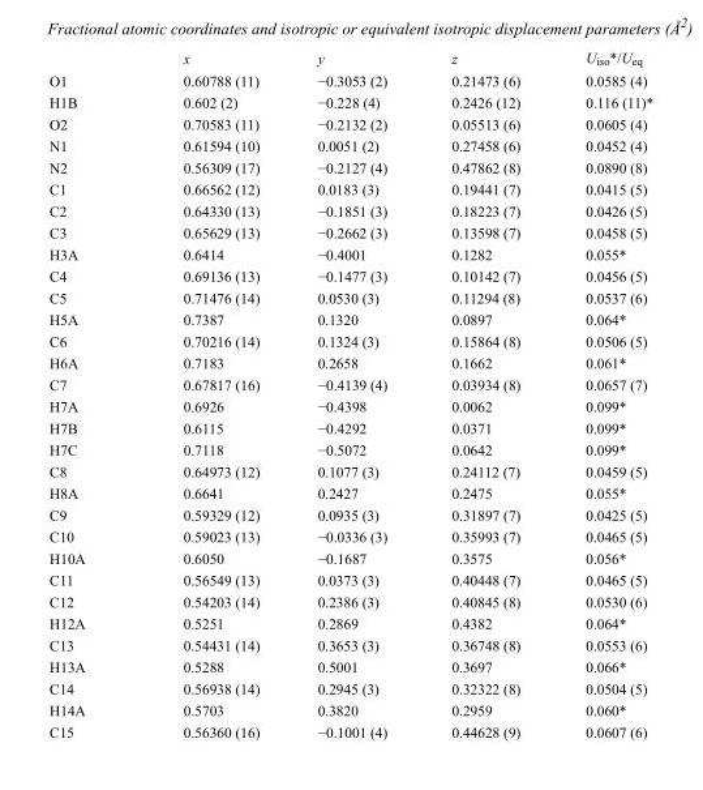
<table><thead><tr><td></td><td>x</td><td>y</td><td>z</td><td>U<sub>iso</sub>*/U<sub>eq</sub></td></tr></thead><tbody><tr><td>O1</td><td>0.60788 (11)</td><td>−0.3053 (2)</td><td>0.21473 (6)</td><td>0.0585 (4)</td></tr><tr><td>H1B</td><td>0.602 (2)</td><td>−0.228 (4)</td><td>0.2426 (12)</td><td>0.116 (11)*</td></tr><tr><td>O2</td><td>0.70583 (11)</td><td>−0.2132 (2)</td><td>0.05513 (6)</td><td>0.0605 (4)</td></tr><tr><td>N1</td><td>0.61594 (10)</td><td>0.0051 (2)</td><td>0.27458 (6)</td><td>0.0452 (4)</td></tr><tr><td>N2</td><td>0.56309 (17)</td><td>−0.2127 (4)</td><td>0.47862 (8)</td><td>0.0890 (8)</td></tr><tr><td>C1</td><td>0.66562 (12)</td><td>0.0183 (3)</td><td>0.19441 (7)</td><td>0.0415 (5)</td></tr><tr><td>C2</td><td>0.64330 (13)</td><td>−0.1851 (3)</td><td>0.18223 (7)</td><td>0.0426 (5)</td></tr><tr><td>C3</td><td>0.65629 (13)</td><td>−0.2662 (3)</td><td>0.13598 (7)</td><td>0.0458 (5)</td></tr><tr><td>H3A</td><td>0.6414</td><td>−0.4001</td><td>0.1282</td><td>0.055*</td></tr><tr><td>C4</td><td>0.69136 (13)</td><td>−0.1477 (3)</td><td>0.10142 (7)</td><td>0.0456 (5)</td></tr><tr><td>C5</td><td>0.71476 (14)</td><td>0.0530 (3)</td><td>0.11294 (8)</td><td>0.0537 (6)</td></tr><tr><td>H5A</td><td>0.7387</td><td>0.1320</td><td>0.0897</td><td>0.064*</td></tr><tr><td>C6</td><td>0.70216 (14)</td><td>0.1324 (3)</td><td>0.15864 (8)</td><td>0.0506 (5)</td></tr><tr><td>H6A</td><td>0.7183</td><td>0.2658</td><td>0.1662</td><td>0.061*</td></tr><tr><td>C7</td><td>0.67817 (16)</td><td>−0.4139 (4)</td><td>0.03934 (8)</td><td>0.0657 (7)</td></tr><tr><td>H7A</td><td>0.6926</td><td>−0.4398</td><td>0.0062</td><td>0.099*</td></tr><tr><td>H7B</td><td>0.6115</td><td>−0.4292</td><td>0.0371</td><td>0.099*</td></tr><tr><td>H7C</td><td>0.7118</td><td>−0.5072</td><td>0.0642</td><td>0.099*</td></tr><tr><td>C8</td><td>0.64973 (12)</td><td>0.1077 (3)</td><td>0.24112 (7)</td><td>0.0459 (5)</td></tr><tr><td>H8A</td><td>0.6641</td><td>0.2427</td><td>0.2475</td><td>0.055*</td></tr><tr><td>C9</td><td>0.59329 (12)</td><td>0.0935 (3)</td><td>0.31897 (7)</td><td>0.0425 (5)</td></tr><tr><td>C10</td><td>0.59023 (13)</td><td>−0.0336 (3)</td><td>0.35993 (7)</td><td>0.0465 (5)</td></tr><tr><td>H10A</td><td>0.6050</td><td>−0.1687</td><td>0.3575</td><td>0.056*</td></tr><tr><td>C11</td><td>0.56549 (13)</td><td>0.0373 (3)</td><td>0.40448 (7)</td><td>0.0465 (5)</td></tr><tr><td>C12</td><td>0.54203 (14)</td><td>0.2386 (3)</td><td>0.40845 (8)</td><td>0.0530 (6)</td></tr><tr><td>H12A</td><td>0.5251</td><td>0.2869</td><td>0.4382</td><td>0.064*</td></tr><tr><td>C13</td><td>0.54431 (14)</td><td>0.3653 (3)</td><td>0.36748 (8)</td><td>0.0553 (6)</td></tr><tr><td>H13A</td><td>0.5288</td><td>0.5001</td><td>0.3697</td><td>0.066*</td></tr><tr><td>C14</td><td>0.56938 (14)</td><td>0.2945 (3)</td><td>0.32322 (8)</td><td>0.0504 (5)</td></tr><tr><td>H14A</td><td>0.5703</td><td>0.3820</td><td>0.2959</td><td>0.060*</td></tr><tr><td>C15</td><td>0.56360 (16)</td><td>−0.1001 (4)</td><td>0.44628 (9)</td><td>0.0607 (6)</td></tr></tbody></table>